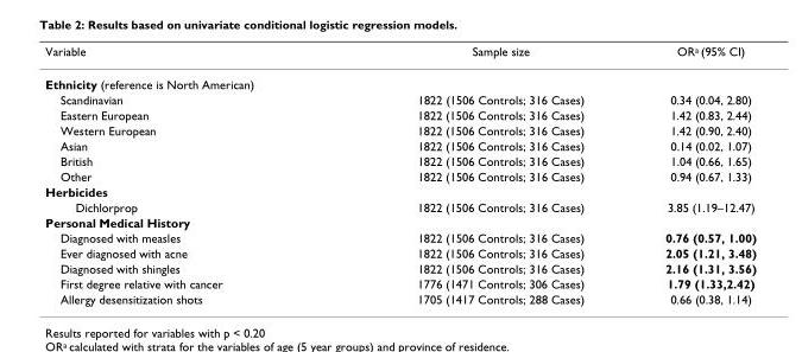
<table><thead><tr><td>Variable</td><td>Sample size</td><td>OR<sup>a</sup> (95% CI)</td></tr></thead><tbody><tr><td colspan="3">Ethnicity (reference is North American)</td></tr><tr><td>Scandinavian</td><td>1822 (1506 Controls; 316 Cases)</td><td>0.34 (0.04, 2.80)</td></tr><tr><td>Eastern European</td><td>1822 (1506 Controls; 316 Cases)</td><td>1.42 (0.83, 2.44)</td></tr><tr><td>Western European</td><td>1822 (1506 Controls; 316 Cases)</td><td>1.42 (0.90, 2.40)</td></tr><tr><td>Asian</td><td>1822 (1506 Controls; 316 Cases)</td><td>0.14 (0.02, 1.07)</td></tr><tr><td>British</td><td>1822 (1506 Controls; 316 Cases)</td><td>1.04 (0.66, 1.65)</td></tr><tr><td>Other</td><td>1822 (1506 Controls; 316 Cases)</td><td>0.94 (0.67, 1.33)</td></tr><tr><td colspan="3">Herbicides</td></tr><tr><td>Dichlorprop</td><td>1822 (1506 Controls; 316 Cases)</td><td>3.85 (1.19–12.47)</td></tr><tr><td colspan="3">Personal Medical History</td></tr><tr><td>Diagnosed with measles</td><td>1822 (1506 Controls; 316 Cases)</td><td>0.76 (0.57, 1.00)</td></tr><tr><td>Ever diagnosed with acne</td><td>1822 (1506 Controls; 316 Cases)</td><td>2.05 (1.21, 3.48)</td></tr><tr><td>Diagnosed with shingles</td><td>1822 (1506 Controls; 316 Cases)</td><td>2.16 (1.31, 3.56)</td></tr><tr><td>First degree relative with cancer</td><td>1776 (1471 Controls; 306 Cases)</td><td>1.79 (1.33,2.42)</td></tr><tr><td>Allergy desensitization shots</td><td>1705 (1417 Controls; 288 Cases)</td><td>0.66 (0.38, 1.14)</td></tr></tbody></table>